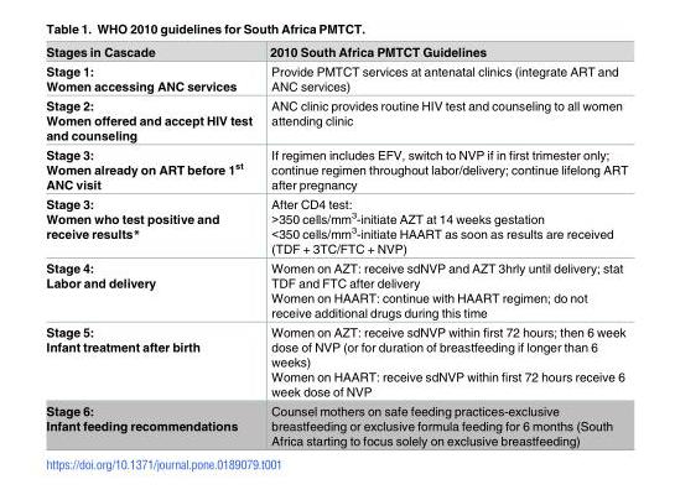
<table><thead><tr><td>Stages in Cascade</td><td>2010 South Africa PMTCT Guidelines</td></tr></thead><tbody><tr><td>Stage 1: Women accessing ANC services</td><td>Provide PMTCT services at antenatal clinics (integrate ART and ANC services)</td></tr><tr><td>Stage 2: Women offered and accept HIV test and counseling</td><td>ANC clinic provides routine HIV test and counseling to all women attending clinic</td></tr><tr><td>Stage 3: Women already on ART before 1<sup>st</sup> ANC visit</td><td>If regimen includes EFV, switch to NVP if in first trimester only; continue regimen throughout labor/delivery; continue lifelong ART after pregnancy</td></tr><tr><td>Stage 3: Women who test positive and receive results*</td><td>After CD4 test: &gt;350 cells/mm<sup>3</sup>-initiate AZT at 14 weeks gestation &lt;350 cells/mm<sup>3</sup>-initiate HAART as soon as results are received (TDF + 3TC/FTC + NVP)</td></tr><tr><td>Stage 4: Labor and delivery</td><td>Women on AZT: receive sdNVP and AZT 3hrly until delivery; stat TDF and FTC after delivery Women on HAART: continue with HAART regimen; do not receive additional drugs during this time</td></tr><tr><td>Stage 5: Infant treatment after birth</td><td>Women on AZT: receive sdNVP within first 72 hours; then 6 week dose of NVP (or for duration of breastfeeding if longer than 6 weeks) Women on HAART: receive sdNVP within first 72 hours receive 6 week dose of NVP</td></tr><tr><td>Stage 6: Infant feeding recommendations</td><td>Counsel mothers on safe feeding practices-exclusive breastfeeding or exclusive formula feeding for 6 months (South Africa starting to focus solely on exclusive breastfeeding)</td></tr></tbody></table>